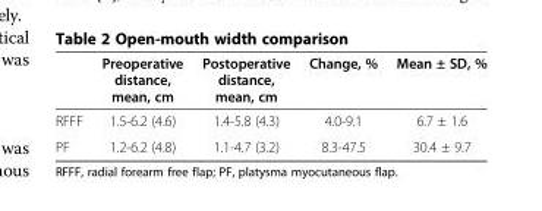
<table><thead><tr><td></td><td>Preoperative distance, mean, cm</td><td>Postoperative distance, mean, cm</td><td>Change, %</td><td>Mean ± SD, %</td></tr></thead><tbody><tr><td>RFFF</td><td>1.5-6.2 (4.6)</td><td>1.4-5.8 (4.3)</td><td>4.0-9.1</td><td>6.7 ± 1.6</td></tr><tr><td>PF</td><td>1.2-6.2 (4.8)</td><td>1.1-4.7 (3.2)</td><td>8.3-47.5</td><td>30.4 ± 9.7</td></tr></tbody></table>